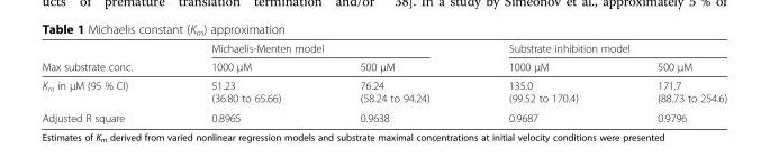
<table><thead><tr><td rowspan="2">Max substrate conc.</td><td colspan="2">Michaelis-Menten model</td><td colspan="2">Substrate inhibition model</td></tr><tr><td>1000 μM</td><td>500 μM</td><td>1000 μM</td><td>500 μM</td></tr></thead><tbody><tr><td>K<sub>m</sub> in μM (95 % CI)</td><td>51.23 (36.80 to 65.66)</td><td>76.24 (58.24 to 94.24)</td><td>135.0 (99.52 to 170.4)</td><td>171.7 (88.73 to 254.6)</td></tr><tr><td>Adjusted R square</td><td>0.8965</td><td>0.9638</td><td>0.9687</td><td>0.9796</td></tr></tbody></table>